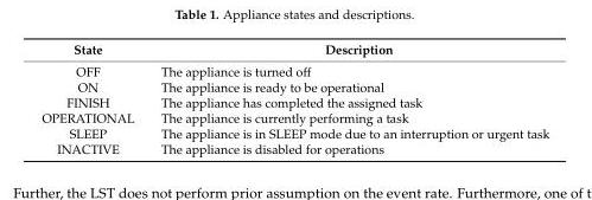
<table><thead><tr><td>State</td><td>Description</td></tr></thead><tbody><tr><td>OFF</td><td>The appliance is turned off</td></tr><tr><td>ON</td><td>The appliance is ready to be operational</td></tr><tr><td>FINISH</td><td>The appliance has completed the assigned task</td></tr><tr><td>OPERATIONAL</td><td>The appliance is currently performing a task</td></tr><tr><td>SLEEP</td><td>The appliance is in SLEEP mode due to an interruption or urgent task</td></tr><tr><td>INACTIVE</td><td>The appliance is disabled for operations</td></tr></tbody></table>